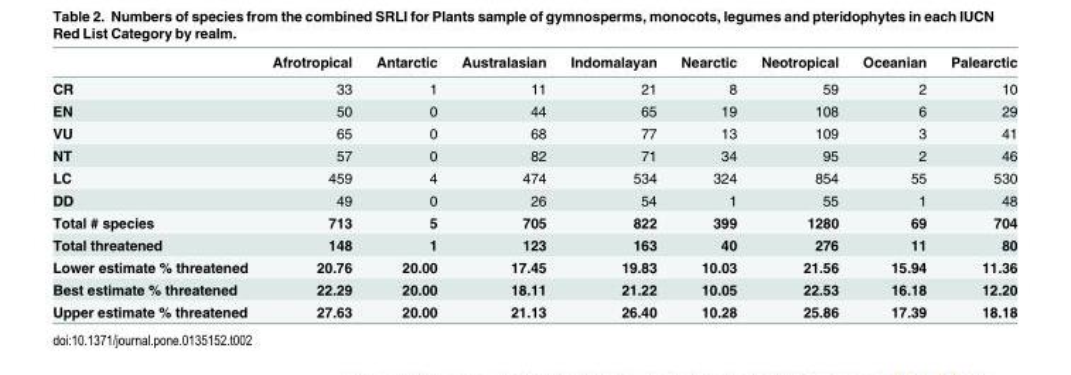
<table><thead><tr><td></td><td>Afrotropical</td><td>Antarctic</td><td>Australasian</td><td>Indomalayan</td><td>Nearctic</td><td>Neotropical</td><td>Oceanian</td><td>Palearctic</td></tr></thead><tbody><tr><td>CR</td><td>33</td><td>1</td><td>11</td><td>21</td><td>8</td><td>59</td><td>2</td><td>10</td></tr><tr><td>EN</td><td>50</td><td>0</td><td>44</td><td>65</td><td>19</td><td>108</td><td>6</td><td>29</td></tr><tr><td>VU</td><td>65</td><td>0</td><td>68</td><td>77</td><td>13</td><td>109</td><td>3</td><td>41</td></tr><tr><td>NT</td><td>57</td><td>0</td><td>82</td><td>71</td><td>34</td><td>95</td><td>2</td><td>46</td></tr><tr><td>LC</td><td>459</td><td>4</td><td>474</td><td>534</td><td>324</td><td>854</td><td>55</td><td>530</td></tr><tr><td>DD</td><td>49</td><td>0</td><td>26</td><td>54</td><td>1</td><td>55</td><td>1</td><td>48</td></tr><tr><td>Total # species</td><td>713</td><td>5</td><td>705</td><td>822</td><td>399</td><td>1280</td><td>69</td><td>704</td></tr><tr><td>Total threatened</td><td>148</td><td>1</td><td>123</td><td>163</td><td>40</td><td>276</td><td>11</td><td>80</td></tr><tr><td>Lower estimate % threatened</td><td>20.76</td><td>20.00</td><td>17.45</td><td>19.83</td><td>10.03</td><td>21.56</td><td>15.94</td><td>11.36</td></tr><tr><td>Best estimate % threatened</td><td>22.29</td><td>20.00</td><td>18.11</td><td>21.22</td><td>10.05</td><td>22.53</td><td>16.18</td><td>12.20</td></tr><tr><td>Upper estimate % threatened</td><td>27.63</td><td>20.00</td><td>21.13</td><td>26.40</td><td>10.28</td><td>25.86</td><td>17.39</td><td>18.18</td></tr></tbody></table>